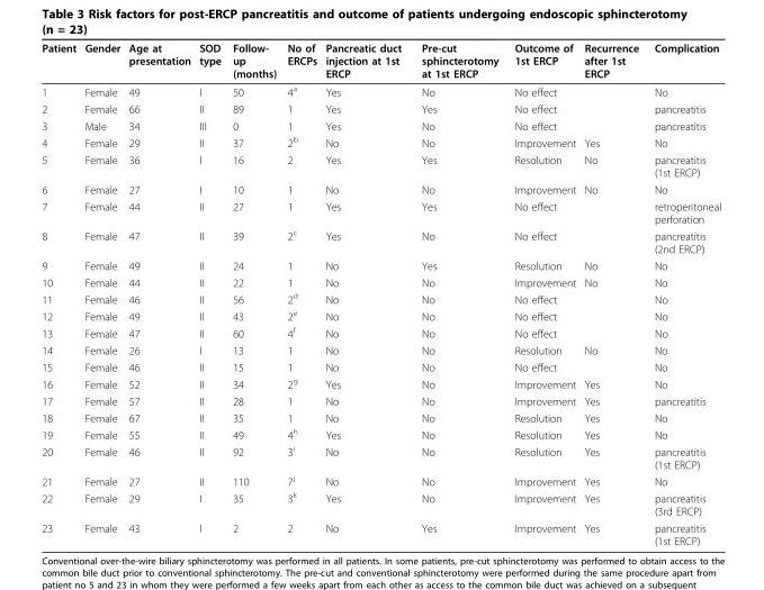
<table><thead><tr><td>Patient</td><td>Gender</td><td>Age at presentation</td><td>SOD type</td><td>Follow- up (months)</td><td>No of ERCPs</td><td>Pancreatic duct injection at 1st ERCP</td><td>Pre-cut sphincterotomy at 1st ERCP</td><td>Outcome of 1st ERCP</td><td>Recurrence after 1st ERCP</td><td>Complication</td></tr></thead><tbody><tr><td>1</td><td>Female</td><td>49</td><td>I</td><td>50</td><td>4<sup>a</sup></td><td>Yes</td><td>No</td><td>No effect</td><td></td><td>No</td></tr><tr><td>2</td><td>Female</td><td>66</td><td>II</td><td>89</td><td>1</td><td>Yes</td><td>Yes</td><td>No effect</td><td></td><td>pancreatitis</td></tr><tr><td>3</td><td>Male</td><td>34</td><td>III</td><td>0</td><td>1</td><td>Yes</td><td>No</td><td>No effect</td><td></td><td>pancreatitis</td></tr><tr><td>4</td><td>Female</td><td>29</td><td>II</td><td>37</td><td>2<sup>b</sup></td><td>No</td><td>No</td><td>Improvement</td><td>Yes</td><td>No</td></tr><tr><td>5</td><td>Female</td><td>36</td><td>I</td><td>16</td><td>2</td><td>Yes</td><td>Yes</td><td>Resolution</td><td>No</td><td>pancreatitis (1st ERCP)</td></tr><tr><td>6</td><td>Female</td><td>27</td><td>I</td><td>10</td><td>1</td><td>No</td><td>No</td><td>Improvement</td><td>No</td><td>No</td></tr><tr><td>7</td><td>Female</td><td>44</td><td>II</td><td>27</td><td>1</td><td>Yes</td><td>Yes</td><td>No effect</td><td></td><td>retroperitoneal perforation</td></tr><tr><td>8</td><td>Female</td><td>47</td><td>II</td><td>39</td><td>2<sup>c</sup></td><td>Yes</td><td>No</td><td>No effect</td><td></td><td>pancreatitis (2nd ERCP)</td></tr><tr><td>9</td><td>Female</td><td>49</td><td>II</td><td>24</td><td>1</td><td>No</td><td>Yes</td><td>Resolution</td><td>No</td><td>No</td></tr><tr><td>10</td><td>Female</td><td>44</td><td>II</td><td>22</td><td>1</td><td>No</td><td>No</td><td>Improvement</td><td>No</td><td>No</td></tr><tr><td>11</td><td>Female</td><td>46</td><td>II</td><td>56</td><td>2<sup>d</sup></td><td>No</td><td>No</td><td>No effect</td><td></td><td>No</td></tr><tr><td>12</td><td>Female</td><td>49</td><td>II</td><td>43</td><td>2<sup>e</sup></td><td>No</td><td>No</td><td>No effect</td><td></td><td>No</td></tr><tr><td>13</td><td>Female</td><td>47</td><td>II</td><td>60</td><td>4<sup>f</sup></td><td>No</td><td>No</td><td>No effect</td><td></td><td>No</td></tr><tr><td>14</td><td>Female</td><td>26</td><td>I</td><td>13</td><td>1</td><td>No</td><td>No</td><td>Resolution</td><td>No</td><td>No</td></tr><tr><td>15</td><td>Female</td><td>46</td><td>II</td><td>15</td><td>1</td><td>No</td><td>No</td><td>No effect</td><td></td><td>No</td></tr><tr><td>16</td><td>Female</td><td>52</td><td>II</td><td>34</td><td>2<sup>g</sup></td><td>Yes</td><td>No</td><td>Improvement</td><td>Yes</td><td>No</td></tr><tr><td>17</td><td>Female</td><td>57</td><td>II</td><td>28</td><td>1</td><td>No</td><td>No</td><td>Improvement</td><td>Yes</td><td>pancreatitis</td></tr><tr><td>18</td><td>Female</td><td>67</td><td>II</td><td>35</td><td>1</td><td>No</td><td>No</td><td>Resolution</td><td>Yes</td><td>No</td></tr><tr><td>19</td><td>Female</td><td>55</td><td>II</td><td>49</td><td>4<sup>h</sup></td><td>Yes</td><td>No</td><td>Resolution</td><td>Yes</td><td>No</td></tr><tr><td>20</td><td>Female</td><td>46</td><td>II</td><td>92</td><td>3<sup>i</sup></td><td>No</td><td>No</td><td>Resolution</td><td>Yes</td><td>pancreatitis (1st ERCP)</td></tr><tr><td>21</td><td>Female</td><td>27</td><td>II</td><td>110</td><td>7<sup>j</sup></td><td>No</td><td>No</td><td>Improvement</td><td>Yes</td><td>No</td></tr><tr><td>22</td><td>Female</td><td>29</td><td>I</td><td>35</td><td>3<sup>k</sup></td><td>Yes</td><td>No</td><td>Improvement</td><td>Yes</td><td>pancreatitis (3rd ERCP)</td></tr><tr><td>23</td><td>Female</td><td>43</td><td>I</td><td>2</td><td>2</td><td>No</td><td>Yes</td><td>Improvement</td><td>Yes</td><td>pancreatitis (1st ERCP)</td></tr></tbody></table>